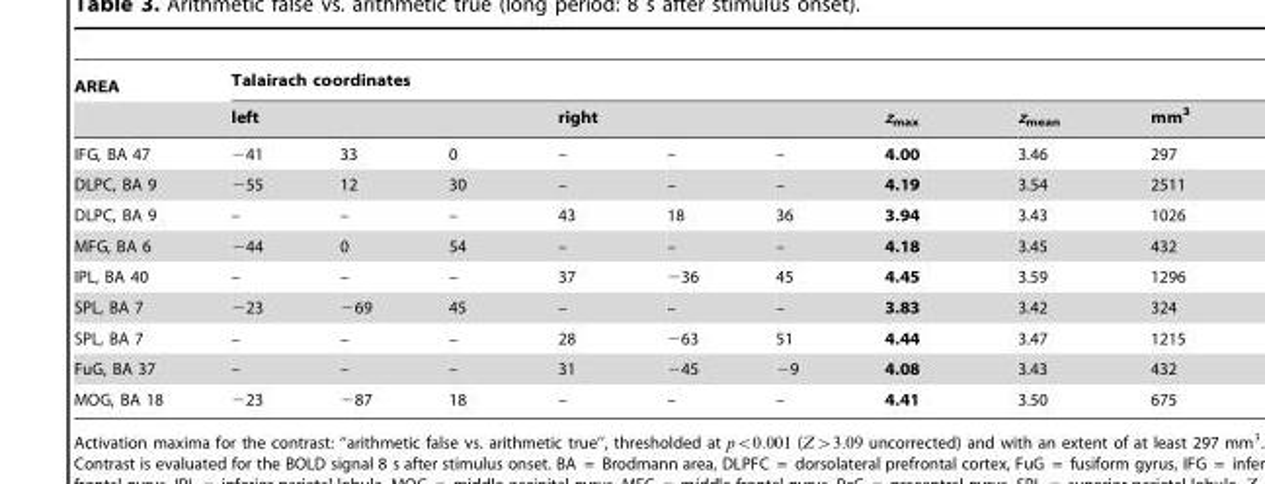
<table><thead><tr><td rowspan="3">AREA IFG, BA 47</td><td colspan="9">Talairach coordinates</td></tr><tr><td colspan="3">left</td><td colspan="3">right</td><td rowspan="2">z<sub>max</sub> 4.00</td><td rowspan="2">z<sub>mean</sub> 3.46</td><td rowspan="2">mm<sup>3</sup> 297</td></tr><tr><td>−41</td><td>33</td><td>0</td><td>–</td><td>–</td><td>–</td></tr></thead><tbody><tr><td>DLPC, BA 9</td><td>−55</td><td>12</td><td>30</td><td>–</td><td>–</td><td>–</td><td>4.19</td><td>3.54</td><td>2511</td></tr><tr><td>DLPC, BA 9</td><td>–</td><td>–</td><td>–</td><td>43</td><td>18</td><td>36</td><td>3.94</td><td>3.43</td><td>1026</td></tr><tr><td>MFG, BA 6</td><td>−44</td><td>0</td><td>54</td><td>–</td><td>–</td><td>–</td><td>4.18</td><td>3.45</td><td>432</td></tr><tr><td>IPL, BA 40</td><td>–</td><td>–</td><td>–</td><td>37</td><td>−36</td><td>45</td><td>4.45</td><td>3.59</td><td>1296</td></tr><tr><td>SPL, BA 7</td><td>−23</td><td>−69</td><td>45</td><td>–</td><td>–</td><td>–</td><td>3.83</td><td>3.42</td><td>324</td></tr><tr><td>SPL, BA 7</td><td>–</td><td>–</td><td>–</td><td>28</td><td>−63</td><td>51</td><td>4.44</td><td>3.47</td><td>1215</td></tr><tr><td>FuG, BA 37</td><td>–</td><td>–</td><td>–</td><td>31</td><td>−45</td><td>−9</td><td>4.08</td><td>3.43</td><td>432</td></tr><tr><td>MOG, BA 18</td><td>−23</td><td>−87</td><td>18</td><td>–</td><td>–</td><td>–</td><td>4.41</td><td>3.50</td><td>675</td></tr></tbody></table>